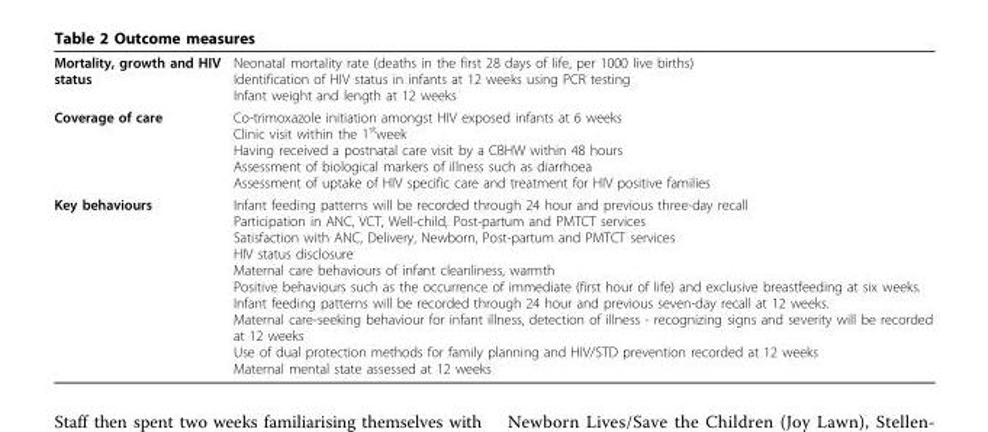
<table><tbody><tr><td>Mortality, growth and HIV status</td><td>Neonatal mortality rate (deaths in the first 28 days of life, per 1000 live births) Identification of HIV status in infants at 12 weeks using PCR testing Infant weight and length at 12 weeks</td></tr><tr><td>Coverage of care</td><td>Co-trimoxazole initiation amongst HIV exposed infants at 6 weeks Clinic visit within the 1<sup>st</sup>week Having received a postnatal care visit by a CBHW within 48 hours Assessment of biological markers of illness such as diarrhoea Assessment of uptake of HIV specific care and treatment for HIV positive families</td></tr><tr><td>Key behaviours</td><td>Infant feeding patterns will be recorded through 24 hour and previous three-day recall Participation in ANC, VCT, Well-child, Post-partum and PMTCT services Satisfaction with ANC, Delivery, Newborn, Post-partum and PMTCT services HIV status disclosure Maternal care behaviours of infant cleanliness, warmth Positive behaviours such as the occurrence of immediate (first hour of life) and exclusive breastfeeding at six weeks. Infant feeding patterns will be recorded through 24 hour and previous seven-day recall at 12 weeks. Maternal care-seeking behaviour for infant illness, detection of illness - recognizing signs and severity will be recorded at 12 weeks Use of dual protection methods for family planning and HIV/STD prevention recorded at 12 weeks Maternal mental state assessed at 12 weeks</td></tr></tbody></table>